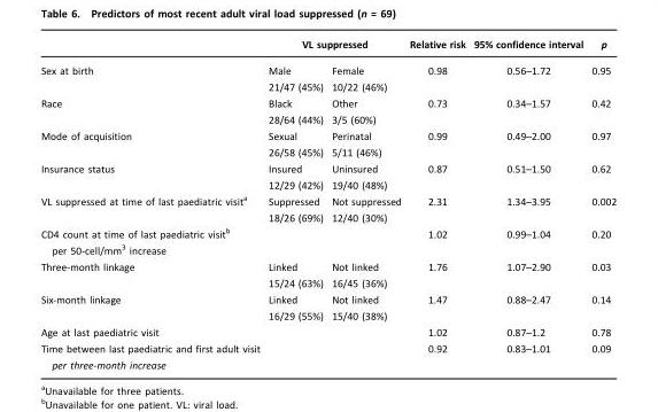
<table><thead><tr><td rowspan="2">Sex at birth</td><td colspan="2">VL suppressed</td><td rowspan="2">Relative risk 0.98</td><td rowspan="2">95% confidence interval 0.56–1.72</td><td rowspan="2">p 0.95</td></tr><tr><td>Male</td><td>Female</td></tr></thead><tbody><tr><td></td><td>21/47 (45%)</td><td>10/22 (46%)</td><td></td><td></td><td></td></tr><tr><td rowspan="2">Race</td><td>Black</td><td>Other</td><td>0.73</td><td>0.34–1.57</td><td>0.42</td></tr><tr><td>28/64 (44%)</td><td>3/5 (60%)</td><td></td><td></td><td></td></tr><tr><td rowspan="2">Mode of acquisition</td><td>Sexual</td><td>Perinatal</td><td>0.99</td><td>0.49–2.00</td><td>0.97</td></tr><tr><td>26/58 (45%)</td><td>5/11 (46%)</td><td></td><td></td><td></td></tr><tr><td rowspan="2">Insurance status</td><td>Insured</td><td>Uninsured</td><td>0.87</td><td>0.51–1.50</td><td>0.62</td></tr><tr><td>12/29 (42%)</td><td>19/40 (48%)</td><td></td><td></td><td></td></tr><tr><td rowspan="2">VL suppressed at time of last paediatric visit<sup>a</sup></td><td>Suppressed</td><td>Not suppressed</td><td>2.31</td><td>1.34–3.95</td><td>0.002</td></tr><tr><td>18/26 (69%)</td><td>12/40 (30%)</td><td></td><td></td><td></td></tr><tr><td>CD4 count at time of last paediatric visit<sup>b</sup> per 50-cell/mm<sup>3</sup> increase</td><td></td><td></td><td>1.02</td><td>0.99–1.04</td><td>0.20</td></tr><tr><td rowspan="2">Three-month linkage</td><td>Linked</td><td>Not linked</td><td>1.76</td><td>1.07–2.90</td><td>0.03</td></tr><tr><td>15/24 (63%)</td><td>16/45 (36%)</td><td></td><td></td><td></td></tr><tr><td rowspan="2">Six-month linkage</td><td>Linked</td><td>Not linked</td><td>1.47</td><td>0.88–2.47</td><td>0.14</td></tr><tr><td>16/29 (55%)</td><td>15/40 (38%)</td><td></td><td></td><td></td></tr><tr><td>Age at last paediatric visit</td><td></td><td></td><td>1.02</td><td>0.87–1.2</td><td>0.78</td></tr><tr><td>Time between last paediatric and first adult visit per three-month increase</td><td></td><td></td><td>0.92</td><td>0.83–1.01</td><td>0.09</td></tr></tbody></table>